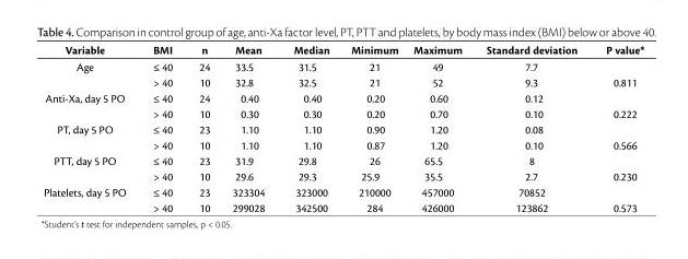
<table><thead><tr><td>Variable</td><td>BMI</td><td>n</td><td>Mean</td><td>Median</td><td>Minimum</td><td>Maximum</td><td>Standard deviation</td><td>P value*</td></tr></thead><tbody><tr><td rowspan="2">Age</td><td>≤ 40</td><td>24</td><td>33.5</td><td>31.5</td><td>21</td><td>49</td><td>7.7</td><td></td></tr><tr><td>&gt; 40</td><td>10</td><td>32.8</td><td>32.5</td><td>21</td><td>52</td><td>9.3</td><td>0.811</td></tr><tr><td rowspan="2">Anti-Xa, day 5 PO</td><td>≤ 40</td><td>24</td><td>0.40</td><td>0.40</td><td>0.20</td><td>0.60</td><td>0.12</td><td></td></tr><tr><td>&gt; 40</td><td>10</td><td>0.30</td><td>0.30</td><td>0.20</td><td>0.70</td><td>0.10</td><td>0.222</td></tr><tr><td rowspan="2">PT, day 5 PO</td><td>≤ 40</td><td>23</td><td>1.10</td><td>1.10</td><td>0.90</td><td>1.20</td><td>0.08</td><td></td></tr><tr><td>&gt; 40</td><td>10</td><td>1.10</td><td>1.10</td><td>0.87</td><td>1.20</td><td>0.10</td><td>0.566</td></tr><tr><td rowspan="2">PTT, day 5 PO</td><td>≤ 40</td><td>23</td><td>31.9</td><td>29.8</td><td>26</td><td>65.5</td><td>8</td><td></td></tr><tr><td>&gt; 40</td><td>10</td><td>29.6</td><td>29.3</td><td>25.9</td><td>35.5</td><td>2.7</td><td>0.230</td></tr><tr><td rowspan="2">Platelets, day 5 PO</td><td>≤ 40</td><td>23</td><td>323304</td><td>323000</td><td>210000</td><td>457000</td><td>70852</td><td></td></tr><tr><td>&gt; 40</td><td>10</td><td>299028</td><td>342500</td><td>284</td><td>426000</td><td>123862</td><td>0.573</td></tr></tbody></table>